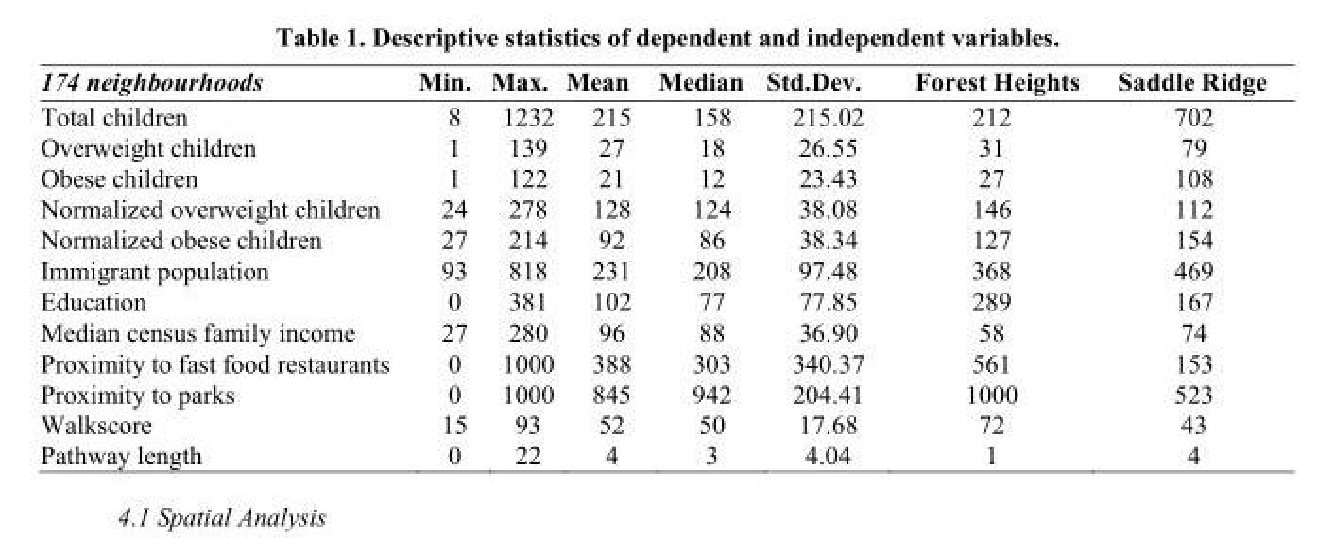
<table><thead><tr><td>174 neighbourhoods</td><td>Min.</td><td>Max.</td><td>Mean</td><td>Median</td><td>Std.Dev.</td><td>Forest Heights</td><td>Saddle Ridge</td></tr></thead><tbody><tr><td>Total children</td><td>8</td><td>1232</td><td>215</td><td>158</td><td>215.02</td><td>212</td><td>702</td></tr><tr><td>Overweight children</td><td>1</td><td>139</td><td>27</td><td>18</td><td>26.55</td><td>31</td><td>79</td></tr><tr><td>Obese children</td><td>1</td><td>122</td><td>21</td><td>12</td><td>23.43</td><td>27</td><td>108</td></tr><tr><td>Normalized overweight children</td><td>24</td><td>278</td><td>128</td><td>124</td><td>38.08</td><td>146</td><td>112</td></tr><tr><td>Normalized obese children</td><td>27</td><td>214</td><td>92</td><td>86</td><td>38.34</td><td>127</td><td>154</td></tr><tr><td>Immigrant population</td><td>93</td><td>818</td><td>231</td><td>208</td><td>97.48</td><td>368</td><td>469</td></tr><tr><td>Education</td><td>0</td><td>381</td><td>102</td><td>77</td><td>77.85</td><td>289</td><td>167</td></tr><tr><td>Median census family income</td><td>27</td><td>280</td><td>96</td><td>88</td><td>36.90</td><td>58</td><td>74</td></tr><tr><td>Proximity to fast food restaurants</td><td>0</td><td>1000</td><td>388</td><td>303</td><td>340.37</td><td>561</td><td>153</td></tr><tr><td>Proximity to parks</td><td>0</td><td>1000</td><td>845</td><td>942</td><td>204.41</td><td>1000</td><td>523</td></tr><tr><td>Walkscore</td><td>15</td><td>93</td><td>52</td><td>50</td><td>17.68</td><td>72</td><td>43</td></tr><tr><td>Pathway length</td><td>0</td><td>22</td><td>4</td><td>3</td><td>4.04</td><td>1</td><td>4</td></tr></tbody></table>